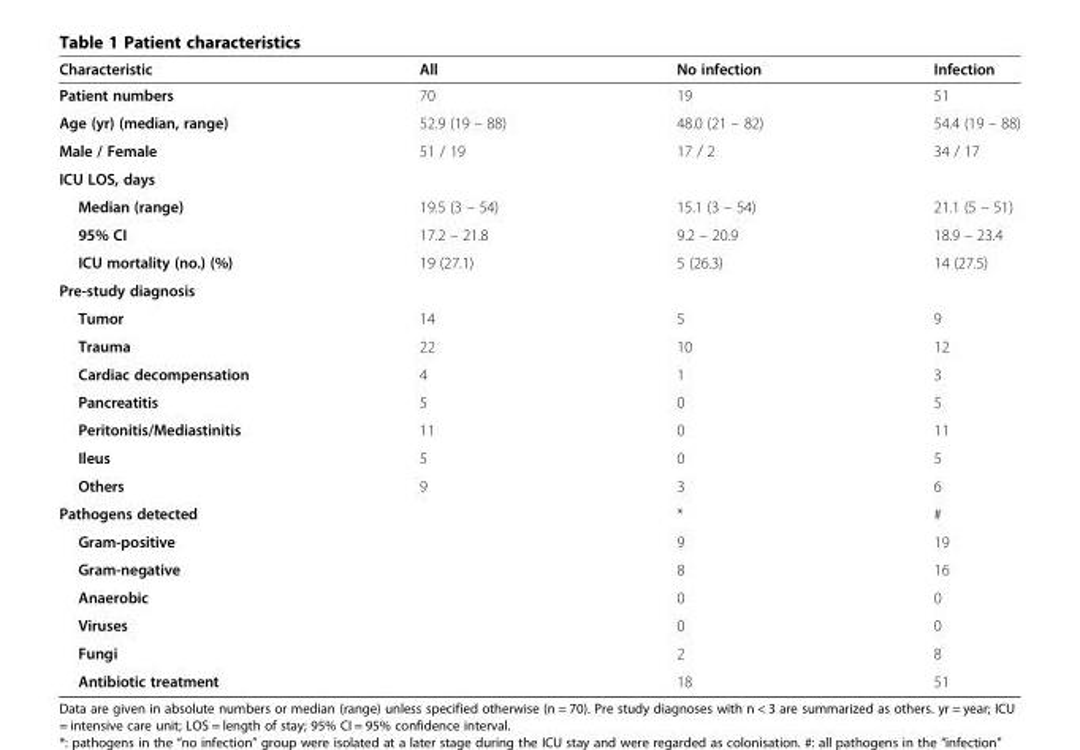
<table><thead><tr><td>Characteristic</td><td>All</td><td>No infection</td><td>Infection</td></tr></thead><tbody><tr><td>Patient numbers</td><td>70</td><td>19</td><td>51</td></tr><tr><td>Age (yr) (median, range)</td><td>52.9 (19 – 88)</td><td>48.0 (21 – 82)</td><td>54.4 (19 – 88)</td></tr><tr><td>Male / Female</td><td>51 / 19</td><td>17 / 2</td><td>34 / 17</td></tr><tr><td colspan="4">ICU LOS, days</td></tr><tr><td>Median (range)</td><td>19.5 (3 – 54)</td><td>15.1 (3 – 54)</td><td>21.1 (5 – 51)</td></tr><tr><td>95% CI</td><td>17.2 – 21.8</td><td>9.2 – 20.9</td><td>18.9 – 23.4</td></tr><tr><td>ICU mortality (no.) (%)</td><td>19 (27.1)</td><td>5 (26.3)</td><td>14 (27.5)</td></tr><tr><td colspan="4">Pre-study diagnosis</td></tr><tr><td>Tumor</td><td>14</td><td>5</td><td>9</td></tr><tr><td>Trauma</td><td>22</td><td>10</td><td>12</td></tr><tr><td>Cardiac decompensation</td><td>4</td><td>1</td><td>3</td></tr><tr><td>Pancreatitis</td><td>5</td><td>0</td><td>5</td></tr><tr><td>Peritonitis/Mediastinitis</td><td>11</td><td>0</td><td>11</td></tr><tr><td>Ileus</td><td>5</td><td>0</td><td>5</td></tr><tr><td>Others</td><td>9</td><td>3</td><td>6</td></tr><tr><td>Pathogens detected</td><td></td><td>*</td><td>#</td></tr><tr><td>Gram-positive</td><td></td><td>9</td><td>19</td></tr><tr><td>Gram-negative</td><td></td><td>8</td><td>16</td></tr><tr><td>Anaerobic</td><td></td><td>0</td><td>0</td></tr><tr><td>Viruses</td><td></td><td>0</td><td>0</td></tr><tr><td>Fungi</td><td></td><td>2</td><td>8</td></tr><tr><td>Antibiotic treatment</td><td></td><td>18</td><td>51</td></tr></tbody></table>